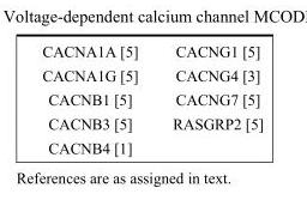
<table><tbody><tr><td>CACNA1A [5]</td><td>CACNG1 [5]</td></tr><tr><td>CACNA1G [5]</td><td>CACNG4 [3]</td></tr><tr><td>CACNB1 [5]</td><td>CACNG7 [5]</td></tr><tr><td>CACNB3 [5]</td><td>RASGRP2 [5]</td></tr><tr><td>CACNB4 [1]</td><td></td></tr></tbody></table>